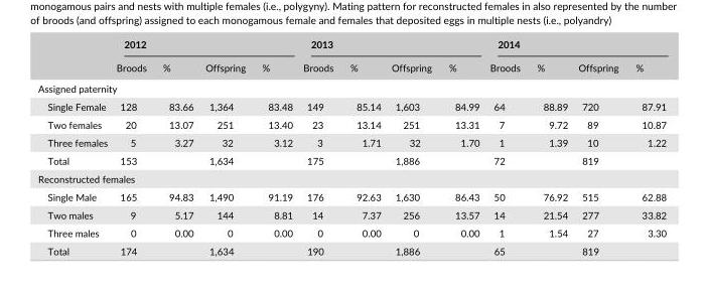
<table><thead><tr><td rowspan="2"></td><td colspan="4">2012</td><td colspan="4">2013</td><td colspan="4">2014</td></tr><tr><td>Broods</td><td>%</td><td>Offspring</td><td>%</td><td>Broods</td><td>%</td><td>Offspring</td><td>%</td><td>Broods</td><td>%</td><td>Offspring</td><td>%</td></tr></thead><tbody><tr><td colspan="13">Assigned paternity</td></tr><tr><td>Single Female</td><td>128</td><td>83.66</td><td>1,364</td><td>83.48</td><td>149</td><td>85.14</td><td>1,603</td><td>84.99</td><td>64</td><td>88.89</td><td>720</td><td>87.91</td></tr><tr><td>Two females</td><td>20</td><td>13.07</td><td>251</td><td>13.40</td><td>23</td><td>13.14</td><td>251</td><td>13.31</td><td>7</td><td>9.72</td><td>89</td><td>10.87</td></tr><tr><td>Three females</td><td>5</td><td>3.27</td><td>32</td><td>3.12</td><td>3</td><td>1.71</td><td>32</td><td>1.70</td><td>1</td><td>1.39</td><td>10</td><td>1.22</td></tr><tr><td>Total</td><td>153</td><td></td><td>1,634</td><td></td><td>175</td><td></td><td>1,886</td><td></td><td>72</td><td></td><td>819</td><td></td></tr><tr><td colspan="13">Reconstructed females</td></tr><tr><td>Single Male</td><td>165</td><td>94.83</td><td>1,490</td><td>91.19</td><td>176</td><td>92.63</td><td>1,630</td><td>86.43</td><td>50</td><td>76.92</td><td>515</td><td>62.88</td></tr><tr><td>Two males</td><td>9</td><td>5.17</td><td>144</td><td>8.81</td><td>14</td><td>7.37</td><td>256</td><td>13.57</td><td>14</td><td>21.54</td><td>277</td><td>33.82</td></tr><tr><td>Three males</td><td>0</td><td>0.00</td><td>0</td><td>0.00</td><td>0</td><td>0.00</td><td>0</td><td>0.00</td><td>1</td><td>1.54</td><td>27</td><td>3.30</td></tr><tr><td>Total</td><td>174</td><td></td><td>1,634</td><td></td><td>190</td><td></td><td>1,886</td><td></td><td>65</td><td></td><td>819</td><td></td></tr></tbody></table>